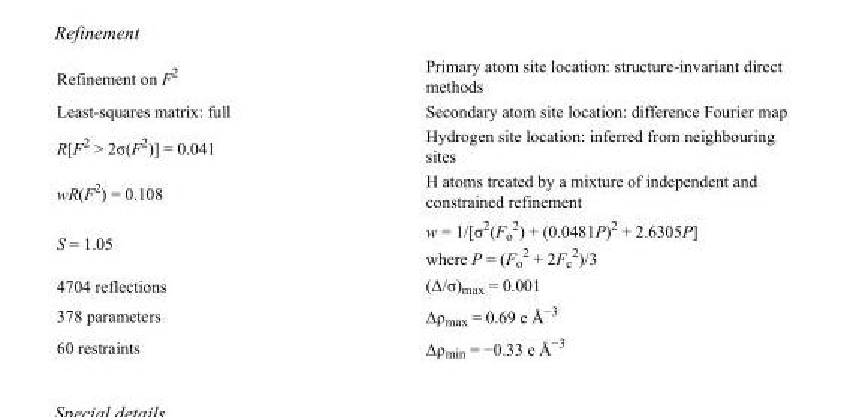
<table><tbody><tr><td>Refinement on F<sup>2</sup></td><td>Primary atom site location: structure-invariant direct methods</td></tr><tr><td>Least-squares matrix: full</td><td>Secondary atom site location: difference Fourier map</td></tr><tr><td>R[F<sup>2</sup> &gt; 2σ(F<sup>2</sup>)] = 0.041</td><td>Hydrogen site location: inferred from neighbouring sites</td></tr><tr><td>wR(F<sup>2</sup>) = 0.108</td><td>H atoms treated by a mixture of independent and constrained refinement</td></tr><tr><td>S = 1.05</td><td>w = 1/[σ<sup>2</sup>(F<sub>o</sub> <sup>2</sup>) + (0.0481P)<sup>2</sup> + 2.6305P] where P = (F<sub>o</sub> <sup>2</sup> + 2F<sub>c</sub> <sup>2</sup>)/3</td></tr><tr><td>4704 reflections</td><td>(Δ/σ)<sub>max</sub> = 0.001</td></tr><tr><td>378 parameters</td><td>Δρ<sub>max</sub> = 0.69 e Å<sup>−3</sup></td></tr><tr><td>60 restraints</td><td>Δρ<sub>min</sub> = −0.33 e Å<sup>−3</sup></td></tr></tbody></table>